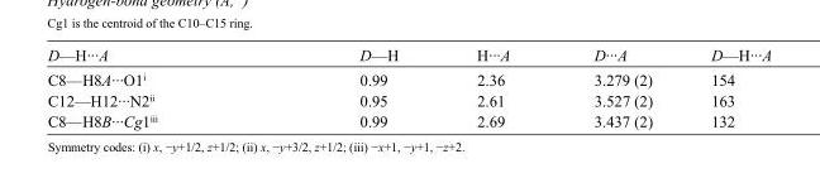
<table><tbody><tr><td>D—H···A</td><td>D—H</td><td>H···A</td><td>D···A</td><td>D—H···A</td></tr><tr><td>C8—H8A···O1<sup>i</sup></td><td>0.99</td><td>2.36</td><td>3.279 (2)</td><td>154</td></tr><tr><td>C12—H12···N2<sup>ii</sup></td><td>0.95</td><td>2.61</td><td>3.527 (2)</td><td>163</td></tr><tr><td>C8—H8B···Cg1<sup>iii</sup></td><td>0.99</td><td>2.69</td><td>3.437 (2)</td><td>132</td></tr></tbody></table>